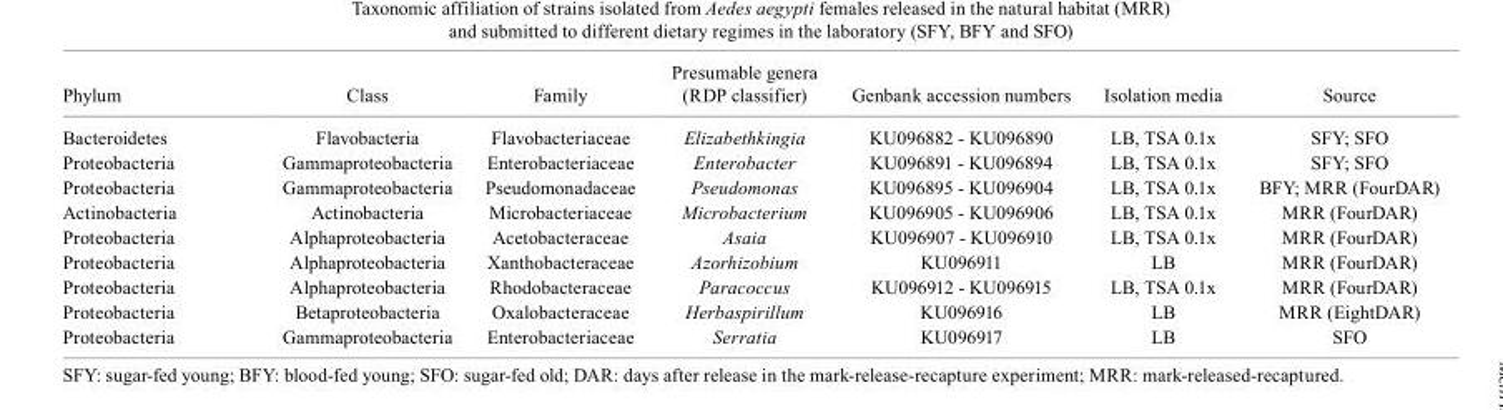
<table><thead><tr><td>Phylum</td><td>Class</td><td>Family</td><td>Presumable genera (RDP classifier)</td><td>Genbank accession numbers</td><td>Isolation media</td><td>Source</td></tr></thead><tbody><tr><td>Bacteroidetes</td><td>Flavobacteria</td><td>Flavobacteriaceae</td><td>Elizabethkingia</td><td>KU096882 - KU096890</td><td>LB, TSA 0.1x</td><td>SFY; SFO</td></tr><tr><td>Proteobacteria</td><td>Gammaproteobacteria</td><td>Enterobacteriaceae</td><td>Enterobacter</td><td>KU096891 - KU096894</td><td>LB, TSA 0.1x</td><td>SFY; SFO</td></tr><tr><td>Proteobacteria</td><td>Gammaproteobacteria</td><td>Pseudomonadaceae</td><td>Pseudomonas</td><td>KU096895 - KU096904</td><td>LB, TSA 0.1x</td><td>BFY; MRR (FourDAR)</td></tr><tr><td>Actinobacteria</td><td>Actinobacteria</td><td>Microbacteriaceae</td><td>Microbacterium</td><td>KU096905 - KU096906</td><td>LB, TSA 0.1x</td><td>MRR (FourDAR)</td></tr><tr><td>Proteobacteria</td><td>Alphaproteobacteria</td><td>Acetobacteraceae</td><td>Asaia</td><td>KU096907 - KU096910</td><td>LB, TSA 0.1x</td><td>MRR (FourDAR)</td></tr><tr><td>Proteobacteria</td><td>Alphaproteobacteria</td><td>Xanthobacteraceae</td><td>Azorhizobium</td><td>KU096911</td><td>LB</td><td>MRR (FourDAR)</td></tr><tr><td>Proteobacteria</td><td>Alphaproteobacteria</td><td>Rhodobacteraceae</td><td>Paracoccus</td><td>KU096912 - KU096915</td><td>LB, TSA 0.1x</td><td>MRR (FourDAR)</td></tr><tr><td>Proteobacteria</td><td>Betaproteobacteria</td><td>Oxalobacteraceae</td><td>Herbaspirillum</td><td>KU096916</td><td>LB</td><td>MRR (EightDAR)</td></tr><tr><td>Proteobacteria</td><td>Gammaproteobacteria</td><td>Enterobacteriaceae</td><td>Serratia</td><td>KU096917</td><td>LB</td><td>SFO</td></tr></tbody></table>